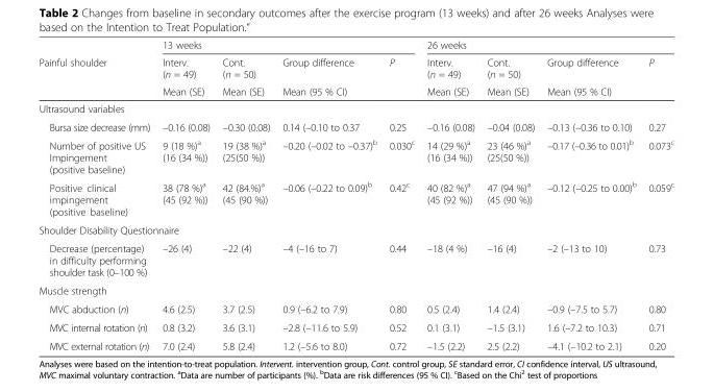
<table><thead><tr><td rowspan="3">Painful shoulder</td><td colspan="4">13 weeks</td><td colspan="4">26 weeks</td></tr><tr><td rowspan="2">Interv. (n = 49) Mean (SE)</td><td rowspan="2">Cont. (n = 50) Mean (SE)</td><td rowspan="2">Group difference Mean (95 % CI)</td><td rowspan="2">P</td><td rowspan="2">Interv. (n = 49) Mean (SE)</td><td rowspan="2">Cont. (n = 50) Mean (SE)</td><td rowspan="2">Group difference Mean (95 % CI)</td><td rowspan="2">P</td></tr><tr></tr></thead><tbody><tr><td colspan="9">Ultrasound variables</td></tr><tr><td>Bursa size decrease (mm)</td><td>–0.16 (0.08)</td><td>–0.30 (0.08)</td><td>0.14 (–0.10 to 0.37</td><td>0.25</td><td>–0.16 (0.08)</td><td>–0.04 (0.08)</td><td>–0.13 (–0.36 to 0.10)</td><td>0.27</td></tr><tr><td>Number of positive US Impingement (positive baseline)</td><td>9 (18 %)<sup>a</sup> (16 (34 %))</td><td>19 (38 %)<sup>a</sup> (25(50 %))</td><td>–0.20 (–0.02 to –0.37)<sup>b</sup></td><td>0.030<sup>c</sup></td><td>14 (29 %)<sup>a</sup> (16 (34 %))</td><td>23 (46 %)<sup>a</sup> (25(50 %))</td><td>–0.17 (–0.36 to 0.01)<sup>b</sup></td><td>0.073<sup>c</sup></td></tr><tr><td>Positive clinical impingement (positive baseline)</td><td>38 (78 %)<sup>a</sup> (45 (92 %))</td><td>42 (84.%)<sup>a</sup> (45 (90 %))</td><td>–0.06 (–0.22 to 0.09)<sup>b</sup></td><td>0.42<sup>c</sup></td><td>40 (82 %)<sup>a</sup> (45 (92 %))</td><td>47 (94 %)<sup>a</sup> (45 (90 %))</td><td>–0.12 (–0.25 to 0.00)<sup>b</sup></td><td>0.059<sup>c</sup></td></tr><tr><td colspan="9">Shoulder Disability Questionnaire</td></tr><tr><td>Decrease (percentage) in difficulty performing shoulder task (0–100 %)</td><td>–26 (4)</td><td>–22 (4)</td><td>–4 (–16 to 7)</td><td>0.44</td><td>–18 (4 %)</td><td>–16 (4)</td><td>–2 (–13 to 10)</td><td>0.73</td></tr><tr><td colspan="9">Muscle strength</td></tr><tr><td>MVC abduction (n)</td><td>4.6 (2.5)</td><td>3.7 (2.5)</td><td>0.9 (–6.2 to 7.9)</td><td>0.80</td><td>0.5 (2.4)</td><td>1.4 (2.4)</td><td>–0.9 (–7.5 to 5.7)</td><td>0.80</td></tr><tr><td>MVC internal rotation (n)</td><td>0.8 (3.2)</td><td>3.6 (3.1)</td><td>–2.8 (–11.6 to 5.9)</td><td>0.52</td><td>0.1 (3.1)</td><td>–1.5 (3.1)</td><td>1.6 (–7.2 to 10.3)</td><td>0.71</td></tr><tr><td>MVC external rotation (n)</td><td>7.0 (2.4)</td><td>5.8 (2.4)</td><td>1.2 (–5.6 to 8.0)</td><td>0.72</td><td>–1.5 (2.2)</td><td>2.5 (2.2)</td><td>–4.1 (–10.2 to 2.1)</td><td>0.20</td></tr></tbody></table>